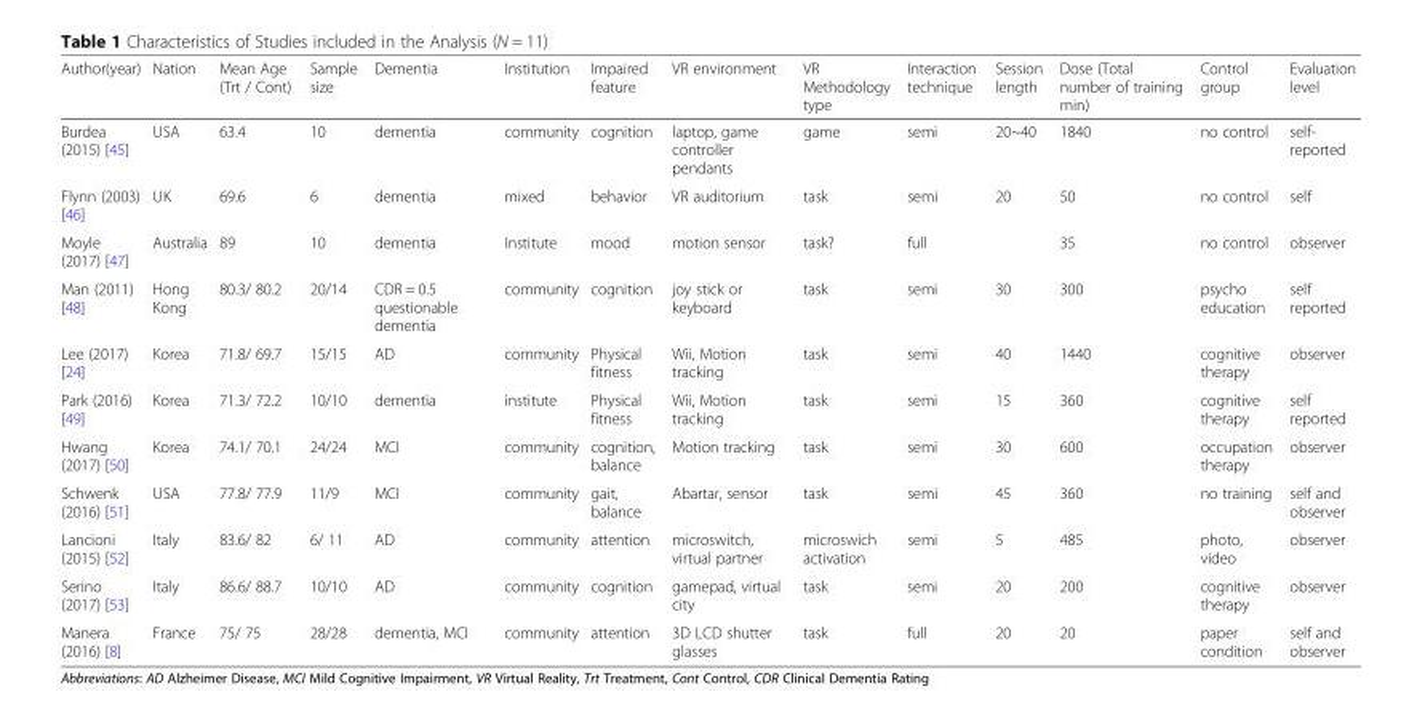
<table><thead><tr><td>Author(year)</td><td>Nation</td><td>Mean Age (Trt / Cont)</td><td>Sample size</td><td>Dementia</td><td>Institution</td><td>Impaired feature</td><td>VR environment</td><td>VR Methodology type</td><td>Interaction technique</td><td>Session length</td><td>Dose (Total number of training min)</td><td>Control group</td><td>Evaluation level</td></tr></thead><tbody><tr><td>Burdea (2015) [45]</td><td>USA</td><td>63.4</td><td>10</td><td>dementia</td><td>community</td><td>cognition</td><td>laptop, game controller pendants</td><td>game</td><td>semi</td><td>20~40</td><td>1840</td><td>no control</td><td>self- reported</td></tr><tr><td>Flynn (2003) [46]</td><td>UK</td><td>69.6</td><td>6</td><td>dementia</td><td>mixed</td><td>behavior</td><td>VR auditorium</td><td>task</td><td>semi</td><td>20</td><td>50</td><td>no control</td><td>self</td></tr><tr><td>Moyle (2017) [47]</td><td>Australia</td><td>89</td><td>10</td><td>dementia</td><td>Institute</td><td>mood</td><td>motion sensor</td><td>task?</td><td>full</td><td></td><td>35</td><td>no control</td><td>observer</td></tr><tr><td>Man (2011) [48]</td><td>Hong Kong</td><td>80.3/ 80.2</td><td>20/14</td><td>CDR = 0.5 questionable dementia</td><td>community</td><td>cognition</td><td>joy stick or keyboard</td><td>task</td><td>semi</td><td>30</td><td>300</td><td>psycho education</td><td>self reported</td></tr><tr><td>Lee (2017) [24]</td><td>Korea</td><td>71.8/ 69.7</td><td>15/15</td><td>AD</td><td>community</td><td>Physical fitness</td><td>Wii, Motion tracking</td><td>task</td><td>semi</td><td>40</td><td>1440</td><td>cognitive therapy</td><td>observer</td></tr><tr><td>Park (2016) [49]</td><td>Korea</td><td>71.3/ 72.2</td><td>10/10</td><td>dementia</td><td>institute</td><td>Physical fitness</td><td>Wii, Motion tracking</td><td>task</td><td>semi</td><td>15</td><td>360</td><td>cognitive therapy</td><td>self reported</td></tr><tr><td>Hwang (2017) [50]</td><td>Korea</td><td>74.1/ 70.1</td><td>24/24</td><td>MCI</td><td>community</td><td>cognition, balance</td><td>Motion tracking</td><td>task</td><td>semi</td><td>30</td><td>600</td><td>occupation therapy</td><td>observer</td></tr><tr><td>Schwenk (2016) [51]</td><td>USA</td><td>77.8/ 77.9</td><td>11/9</td><td>MCI</td><td>community</td><td>gait, balance</td><td>Abartar, sensor</td><td>task</td><td>semi</td><td>45</td><td>360</td><td>no training</td><td>self and observer</td></tr><tr><td>Lancioni (2015) [52]</td><td>Italy</td><td>83.6/ 82</td><td>6/ 11</td><td>AD</td><td>community</td><td>attention</td><td>microswitch, virtual partner</td><td>microswich activation</td><td>semi</td><td>5</td><td>485</td><td>photo, video</td><td>observer</td></tr><tr><td>Serino (2017) [53]</td><td>Italy</td><td>86.6/ 88.7</td><td>10/10</td><td>AD</td><td>community</td><td>cognition</td><td>gamepad, virtual city</td><td>task</td><td>semi</td><td>20</td><td>200</td><td>cognitive therapy</td><td>observer</td></tr><tr><td>Manera (2016) [8]</td><td>France</td><td>75/ 75</td><td>28/28</td><td>dementia, MCI</td><td>community</td><td>attention</td><td>3D LCD shutter glasses</td><td>task</td><td>full</td><td>20</td><td>20</td><td>paper condition</td><td>self and observer</td></tr></tbody></table>